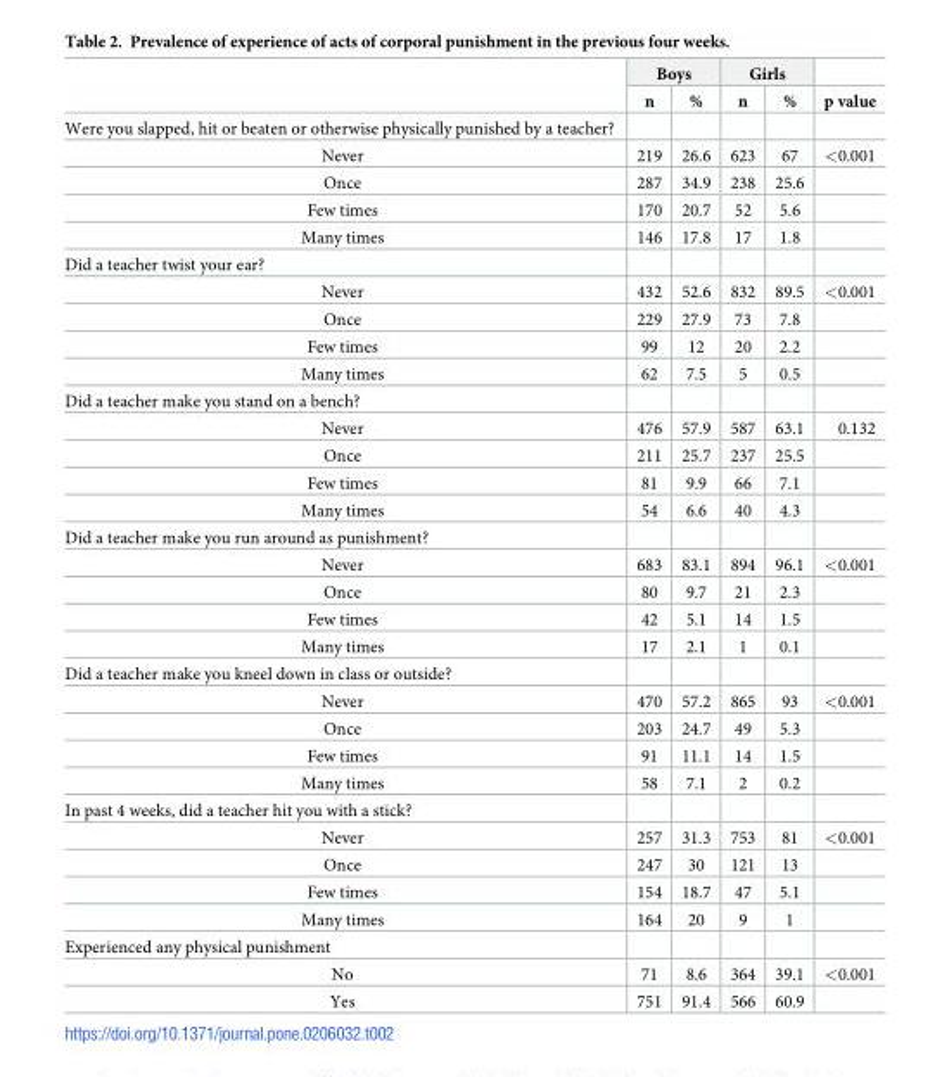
<table><thead><tr><td rowspan="2"></td><td colspan="2">Boys</td><td colspan="2">Girls</td><td rowspan="2">p value</td></tr><tr><td>n</td><td>%</td><td>n</td><td>%</td></tr></thead><tbody><tr><td colspan="6">Were you slapped, hit or beaten or otherwise physically punished by a teacher?</td></tr><tr><td>Never</td><td>219</td><td>26.6</td><td>623</td><td>67</td><td>&lt;0.001</td></tr><tr><td>Once</td><td>287</td><td>34.9</td><td>238</td><td>25.6</td><td></td></tr><tr><td>Few times</td><td>170</td><td>20.7</td><td>52</td><td>5.6</td><td></td></tr><tr><td>Many times</td><td>146</td><td>17.8</td><td>17</td><td>1.8</td><td></td></tr><tr><td colspan="6">Did a teacher twist your ear?</td></tr><tr><td>Never</td><td>432</td><td>52.6</td><td>832</td><td>89.5</td><td>&lt;0.001</td></tr><tr><td>Once</td><td>229</td><td>27.9</td><td>73</td><td>7.8</td><td></td></tr><tr><td>Few times</td><td>99</td><td>12</td><td>20</td><td>2.2</td><td></td></tr><tr><td>Many times</td><td>62</td><td>7.5</td><td>5</td><td>0.5</td><td></td></tr><tr><td colspan="6">Did a teacher make you stand on a bench?</td></tr><tr><td>Never</td><td>476</td><td>57.9</td><td>587</td><td>63.1</td><td>0.132</td></tr><tr><td>Once</td><td>211</td><td>25.7</td><td>237</td><td>25.5</td><td></td></tr><tr><td>Few times</td><td>81</td><td>9.9</td><td>66</td><td>7.1</td><td></td></tr><tr><td>Many times</td><td>54</td><td>6.6</td><td>40</td><td>4.3</td><td></td></tr><tr><td colspan="6">Did a teacher make you run around as punishment?</td></tr><tr><td>Never</td><td>683</td><td>83.1</td><td>894</td><td>96.1</td><td>&lt;0.001</td></tr><tr><td>Once</td><td>80</td><td>9.7</td><td>21</td><td>2.3</td><td></td></tr><tr><td>Few times</td><td>42</td><td>5.1</td><td>14</td><td>1.5</td><td></td></tr><tr><td>Many times</td><td>17</td><td>2.1</td><td>1</td><td>0.1</td><td></td></tr><tr><td colspan="6">Did a teacher make you kneel down in class or outside?</td></tr><tr><td>Never</td><td>470</td><td>57.2</td><td>865</td><td>93</td><td>&lt;0.001</td></tr><tr><td>Once</td><td>203</td><td>24.7</td><td>49</td><td>5.3</td><td></td></tr><tr><td>Few times</td><td>91</td><td>11.1</td><td>14</td><td>1.5</td><td></td></tr><tr><td>Many times</td><td>58</td><td>7.1</td><td>2</td><td>0.2</td><td></td></tr><tr><td colspan="6">In past 4 weeks, did a teacher hit you with a stick?</td></tr><tr><td>Never</td><td>257</td><td>31.3</td><td>753</td><td>81</td><td>&lt;0.001</td></tr><tr><td>Once</td><td>247</td><td>30</td><td>121</td><td>13</td><td></td></tr><tr><td>Few times</td><td>154</td><td>18.7</td><td>47</td><td>5.1</td><td></td></tr><tr><td>Many times</td><td>164</td><td>20</td><td>9</td><td>1</td><td></td></tr><tr><td colspan="6">Experienced any physical punishment</td></tr><tr><td>No</td><td>71</td><td>8.6</td><td>364</td><td>39.1</td><td>&lt;0.001</td></tr><tr><td>Yes</td><td>751</td><td>91.4</td><td>566</td><td>60.9</td><td></td></tr></tbody></table>